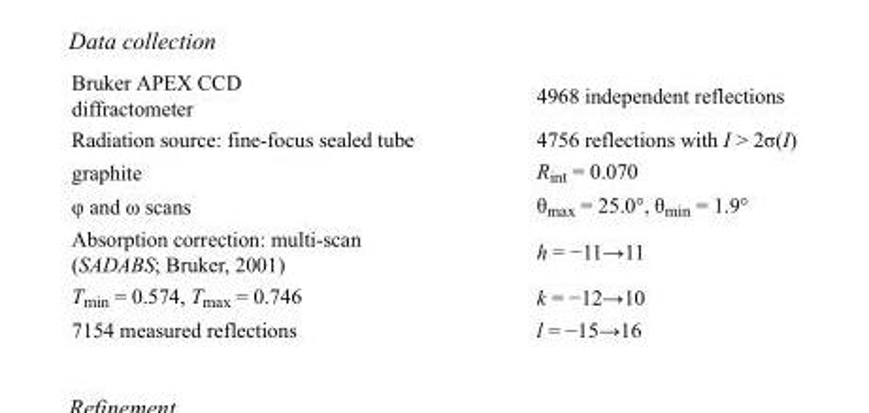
<table><tbody><tr><td>Bruker APEX CCD diffractometer</td><td>4968 independent reflections</td></tr><tr><td>Radiation source: fine-focus sealed tube</td><td>4756 reflections with I &gt; 2σ(I)</td></tr><tr><td>graphite</td><td>R<sub>int</sub> = 0.070</td></tr><tr><td>φ and ω scans</td><td>θ<sub>max</sub> = 25.0°, θ<sub>min</sub> = 1.9°</td></tr><tr><td>Absorption correction: multi-scan (SADABS; Bruker, 2001)</td><td>h = −11→11</td></tr><tr><td>T<sub>min</sub> = 0.574, T<sub>max</sub> = 0.746</td><td>k = −12→10</td></tr><tr><td>7154 measured reflections</td><td>l = −15→16</td></tr></tbody></table>